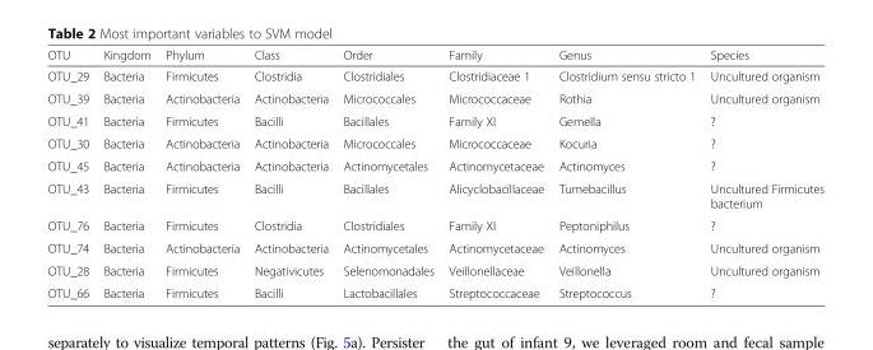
<table><thead><tr><td>OTU</td><td>Kingdom</td><td>Phylum</td><td>Class</td><td>Order</td><td>Family</td><td>Genus</td><td>Species</td></tr></thead><tbody><tr><td>OTU_29</td><td>Bacteria</td><td>Firmicutes</td><td>Clostridia</td><td>Clostridiales</td><td>Clostridiaceae 1</td><td>Clostridium sensu stricto 1</td><td>Uncultured organism</td></tr><tr><td>OTU_39</td><td>Bacteria</td><td>Actinobacteria</td><td>Actinobacteria</td><td>Micrococcales</td><td>Micrococcaceae</td><td>Rothia</td><td>Uncultured organism</td></tr><tr><td>OTU_41</td><td>Bacteria</td><td>Firmicutes</td><td>Bacilli</td><td>Bacillales</td><td>Family XI</td><td>Gemella</td><td>?</td></tr><tr><td>OTU_30</td><td>Bacteria</td><td>Actinobacteria</td><td>Actinobacteria</td><td>Micrococcales</td><td>Micrococcaceae</td><td>Kocuria</td><td>?</td></tr><tr><td>OTU_45</td><td>Bacteria</td><td>Actinobacteria</td><td>Actinobacteria</td><td>Actinomycetales</td><td>Actinomycetaceae</td><td>Actinomyces</td><td>?</td></tr><tr><td>OTU_43</td><td>Bacteria</td><td>Firmicutes</td><td>Bacilli</td><td>Bacillales</td><td>Alicyclobacillaceae</td><td>Tumebacillus</td><td>Uncultured Firmicutes bacterium</td></tr><tr><td>OTU_76</td><td>Bacteria</td><td>Firmicutes</td><td>Clostridia</td><td>Clostridiales</td><td>Family XI</td><td>Peptoniphilus</td><td>?</td></tr><tr><td>OTU_74</td><td>Bacteria</td><td>Actinobacteria</td><td>Actinobacteria</td><td>Actinomycetales</td><td>Actinomycetaceae</td><td>Actinomyces</td><td>Uncultured organism</td></tr><tr><td>OTU_28</td><td>Bacteria</td><td>Firmicutes</td><td>Negativicutes</td><td>Selenomonadales</td><td>Veillonellaceae</td><td>Veillonella</td><td>Uncultured organism</td></tr><tr><td>OTU_66</td><td>Bacteria</td><td>Firmicutes</td><td>Bacilli</td><td>Lactobacillales</td><td>Streptococcaceae</td><td>Streptococcus</td><td>?</td></tr></tbody></table>